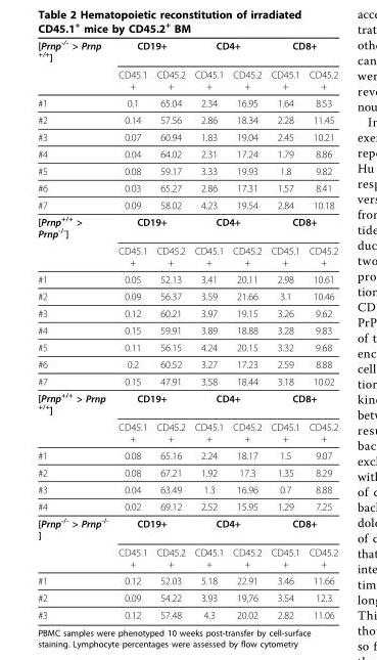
<table><thead><tr><td rowspan="2">[Prnp<sup>-/-</sup> &gt; Prnp <sup>+/+</sup>]</td><td colspan="2">CD19+</td><td colspan="2">CD4+</td><td colspan="2">CD8+</td></tr><tr><td>CD45.1 +</td><td>CD45.2 +</td><td>CD45.1 +</td><td>CD45.2 +</td><td>CD45.1 +</td><td>CD45.2 +</td></tr></thead><tbody><tr><td>#1</td><td>0.1</td><td>65.04</td><td>2.34</td><td>16.95</td><td>1.64</td><td>8.53</td></tr><tr><td>#2</td><td>0.14</td><td>57.56</td><td>2.86</td><td>18.34</td><td>2.28</td><td>11.45</td></tr><tr><td>#3</td><td>0.07</td><td>60.94</td><td>1.83</td><td>19.04</td><td>2.45</td><td>10.21</td></tr><tr><td>#4</td><td>0.04</td><td>64.02</td><td>2.31</td><td>17.24</td><td>1.79</td><td>8.86</td></tr><tr><td>#5</td><td>0.08</td><td>59.17</td><td>3.33</td><td>19.93</td><td>1.8</td><td>9.82</td></tr><tr><td>#6</td><td>0.03</td><td>65.27</td><td>2.86</td><td>17.31</td><td>1.57</td><td>8.41</td></tr><tr><td>#7</td><td>0.09</td><td>58.02</td><td>4.23</td><td>19.54</td><td>2.84</td><td>10.18</td></tr><tr><td rowspan="2">[Prnp<sup>+/+</sup> &gt; Prnp<sup>-/-</sup>]</td><td colspan="2">CD19+</td><td colspan="2">CD4+</td><td colspan="2">CD8+</td></tr><tr><td>CD45.1 +</td><td>CD45.2 +</td><td>CD45.1 +</td><td>CD45.2 +</td><td>CD45.1 +</td><td>CD45.2 +</td></tr><tr><td>#1</td><td>0.05</td><td>52.13</td><td>3.41</td><td>20.11</td><td>2.98</td><td>10.61</td></tr><tr><td>#2</td><td>0.09</td><td>56.37</td><td>3.59</td><td>21.66</td><td>3.1</td><td>10.46</td></tr><tr><td>#3</td><td>0.12</td><td>60.21</td><td>3.97</td><td>19.15</td><td>3.26</td><td>9.62</td></tr><tr><td>#4</td><td>0.15</td><td>59.91</td><td>3.89</td><td>18.88</td><td>3.28</td><td>9.83</td></tr><tr><td>#5</td><td>0.11</td><td>56.15</td><td>4.24</td><td>20.15</td><td>3.32</td><td>9.68</td></tr><tr><td>#6</td><td>0.2</td><td>60.52</td><td>3.27</td><td>17.23</td><td>2.59</td><td>8.88</td></tr><tr><td>#7</td><td>0.15</td><td>47.91</td><td>3.58</td><td>18.44</td><td>3.18</td><td>10.02</td></tr><tr><td rowspan="2">[Prnp<sup>+/+</sup> &gt; Prnp <sup>+/+</sup>]</td><td colspan="2">CD19+</td><td colspan="2">CD4+</td><td colspan="2">CD8+</td></tr><tr><td>CD45.1 +</td><td>CD45.2 +</td><td>CD45.1 +</td><td>CD45.2 +</td><td>CD45.1 +</td><td>CD45.2 +</td></tr><tr><td>#1</td><td>0.08</td><td>65.16</td><td>2.24</td><td>18.17</td><td>1.5</td><td>9.07</td></tr><tr><td>#2</td><td>0.08</td><td>67.21</td><td>1.92</td><td>17.3</td><td>1.35</td><td>8.29</td></tr><tr><td>#3</td><td>0.04</td><td>63.49</td><td>1.3</td><td>16.96</td><td>0.7</td><td>8.88</td></tr><tr><td>#4</td><td>0.02</td><td>69.12</td><td>2.52</td><td>15.95</td><td>1.29</td><td>7.25</td></tr><tr><td rowspan="2">[Prnp<sup>-/-</sup> &gt; Prnp<sup>-/-</sup> ]</td><td colspan="2">CD19+</td><td colspan="2">CD4+</td><td colspan="2">CD8+</td></tr><tr><td>CD45.1 +</td><td>CD45.2 +</td><td>CD45.1 +</td><td>CD45.2 +</td><td>CD45.1 +</td><td>CD45.2 +</td></tr><tr><td>#1</td><td>0.12</td><td>52.03</td><td>5.18</td><td>22.91</td><td>3.46</td><td>11.66</td></tr><tr><td>#2</td><td>0.09</td><td>54.22</td><td>3.93</td><td>19,76</td><td>3.54</td><td>12.3</td></tr><tr><td>#3</td><td>0.12</td><td>57.48</td><td>4.3</td><td>20.02</td><td>2.82</td><td>11.06</td></tr></tbody></table>